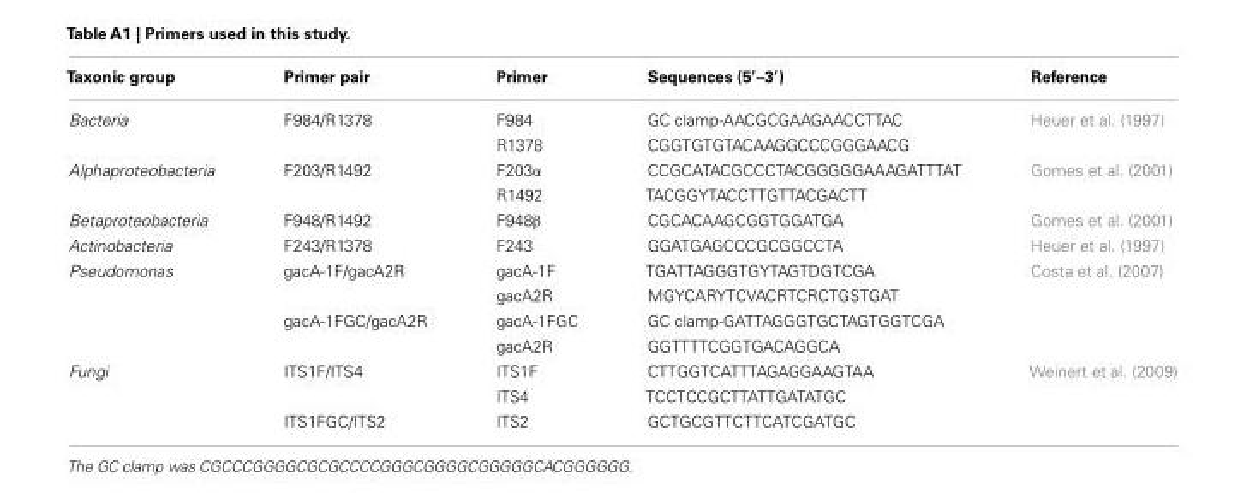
<table><thead><tr><td>Taxonic group</td><td>Primer pair</td><td>Primer</td><td>Sequences (5<sup>′</sup>–3<sup>′</sup>)</td><td>Reference</td></tr></thead><tbody><tr><td rowspan="2">Bacteria</td><td>F984/R1378</td><td>F984</td><td>GC clamp-AACGCGAAGAACCTTAC</td><td>Heuer et al. (1997)</td></tr><tr><td></td><td>R1378</td><td>CGGTGTGTACAAGGCCCGGGAACG</td><td></td></tr><tr><td rowspan="2">Alphaproteobacteria</td><td>F203/R1492</td><td>F203α</td><td>CCGCATACGCCCTACGGGGGAAAGATTTAT</td><td>Gomes et al. (2001)</td></tr><tr><td></td><td>R1492</td><td>TACGGYTACCTTGTTACGACTT</td><td></td></tr><tr><td>Betaproteobacteria</td><td>F948/R1492</td><td>F948β</td><td>CGCACAAGCGGTGGATGA</td><td>Gomes et al. (2001)</td></tr><tr><td>Actinobacteria</td><td>F243/R1378</td><td>F243</td><td>GGATGAGCCCGCGGCCTA</td><td>Heuer et al. (1997)</td></tr><tr><td rowspan="4">Pseudomonas</td><td>gacA-1F/gacA2R</td><td>gacA-1F</td><td>TGATTAGGGTGYTAGTDGTCGA</td><td>Costa et al. (2007)</td></tr><tr><td></td><td>gacA2R</td><td>MGYCARYTCVACRTCRCTGSTGAT</td><td></td></tr><tr><td>gacA-1FGC/gacA2R</td><td>gacA-1FGC</td><td>GC clamp-GATTAGGGTGCTAGTGGTCGA</td><td></td></tr><tr><td></td><td>gacA2R</td><td>GGTTTTCGGTGACAGGCA</td><td></td></tr><tr><td rowspan="3">Fungi</td><td>ITS1F/ITS4</td><td>ITS1F</td><td>CTTGGTCATTTAGAGGAAGTAA</td><td>Weinert et al. (2009)</td></tr><tr><td></td><td>ITS4</td><td>TCCTCCGCTTATTGATATGC</td><td></td></tr><tr><td>ITS1FGC/ITS2</td><td>ITS2</td><td>GCTGCGTTCTTCATCGATGC</td><td></td></tr></tbody></table>